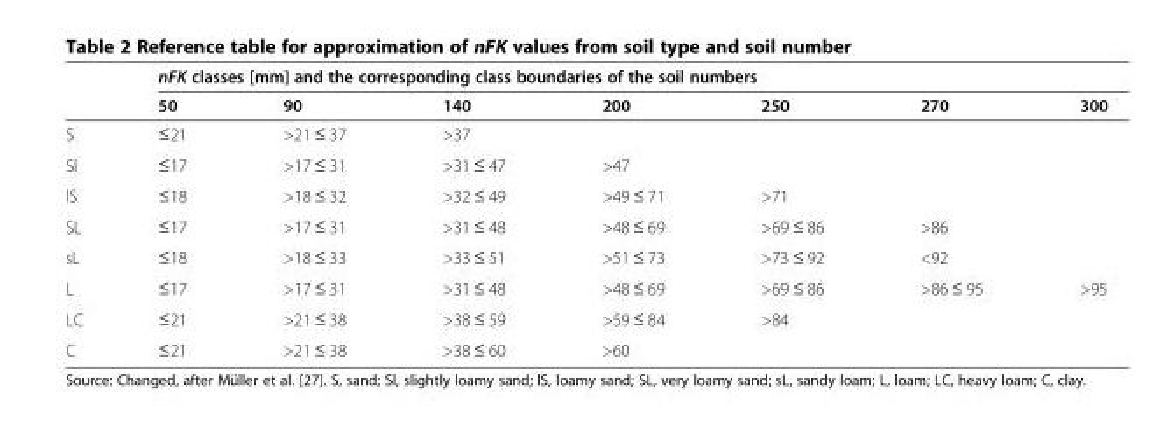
<table><thead><tr><td rowspan="2"></td><td colspan="7">nFK classes [mm] and the corresponding class boundaries of the soil numbers</td></tr><tr><td>50</td><td>90</td><td>140</td><td>200</td><td>250</td><td>270</td><td>300</td></tr></thead><tbody><tr><td>S</td><td>≤21</td><td>&gt;21 ≤ 37</td><td>&gt;37</td><td></td><td></td><td></td><td></td></tr><tr><td>Sl</td><td>≤17</td><td>&gt;17 ≤ 31</td><td>&gt;31 ≤ 47</td><td>&gt;47</td><td></td><td></td><td></td></tr><tr><td>lS</td><td>≤18</td><td>&gt;18 ≤ 32</td><td>&gt;32 ≤ 49</td><td>&gt;49 ≤ 71</td><td>&gt;71</td><td></td><td></td></tr><tr><td>SL</td><td>≤17</td><td>&gt;17 ≤ 31</td><td>&gt;31 ≤ 48</td><td>&gt;48 ≤ 69</td><td>&gt;69 ≤ 86</td><td>&gt;86</td><td></td></tr><tr><td>sL</td><td>≤18</td><td>&gt;18 ≤ 33</td><td>&gt;33 ≤ 51</td><td>&gt;51 ≤ 73</td><td>&gt;73 ≤ 92</td><td>&lt;92</td><td></td></tr><tr><td>L</td><td>≤17</td><td>&gt;17 ≤ 31</td><td>&gt;31 ≤ 48</td><td>&gt;48 ≤ 69</td><td>&gt;69 ≤ 86</td><td>&gt;86 ≤ 95</td><td>&gt;95</td></tr><tr><td>LC</td><td>≤21</td><td>&gt;21 ≤ 38</td><td>&gt;38 ≤ 59</td><td>&gt;59 ≤ 84</td><td>&gt;84</td><td></td><td></td></tr><tr><td>C</td><td>≤21</td><td>&gt;21 ≤ 38</td><td>&gt;38 ≤ 60</td><td>&gt;60</td><td></td><td></td><td></td></tr></tbody></table>